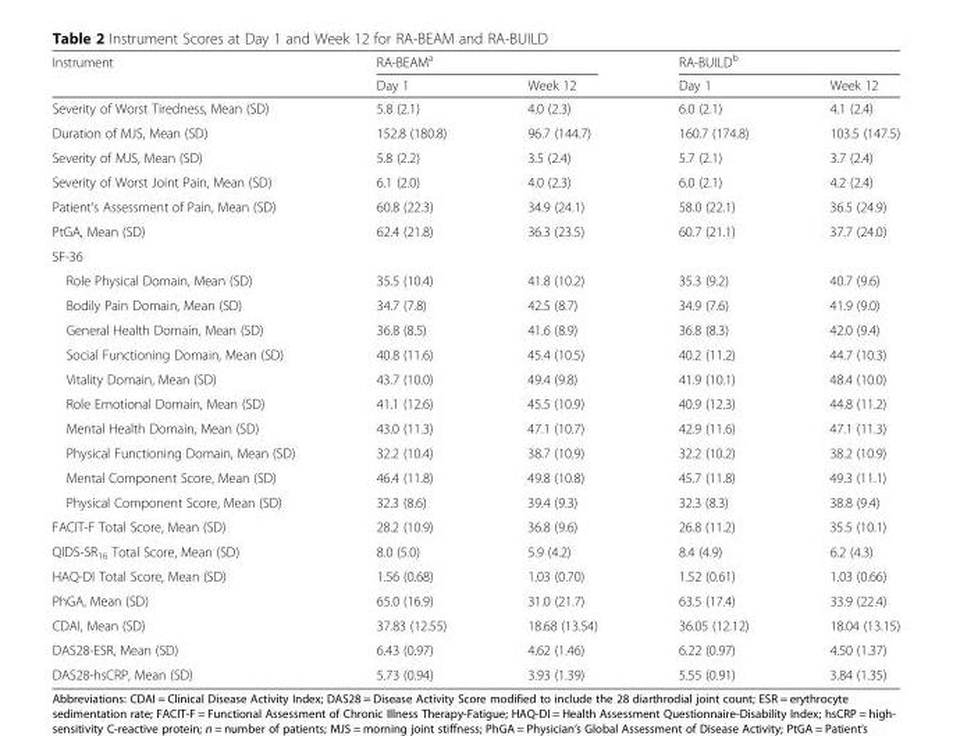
<table><thead><tr><td rowspan="2">Instrument</td><td colspan="2">RA-BEAM<sup>a</sup></td><td colspan="2">RA-BUILD<sup>b</sup></td></tr><tr><td>Day 1</td><td>Week 12</td><td>Day 1</td><td>Week 12</td></tr></thead><tbody><tr><td>Severity of Worst Tiredness, Mean (SD)</td><td>5.8 (2.1)</td><td>4.0 (2.3)</td><td>6.0 (2.1)</td><td>4.1 (2.4)</td></tr><tr><td>Duration of MJS, Mean (SD)</td><td>152.8 (180.8)</td><td>96.7 (144.7)</td><td>160.7 (174.8)</td><td>103.5 (147.5)</td></tr><tr><td>Severity of MJS, Mean (SD)</td><td>5.8 (2.2)</td><td>3.5 (2.4)</td><td>5.7 (2.1)</td><td>3.7 (2.4)</td></tr><tr><td>Severity of Worst Joint Pain, Mean (SD)</td><td>6.1 (2.0)</td><td>4.0 (2.3)</td><td>6.0 (2.1)</td><td>4.2 (2.4)</td></tr><tr><td>Patient’s Assessment of Pain, Mean (SD)</td><td>60.8 (22.3)</td><td>34.9 (24.1)</td><td>58.0 (22.1)</td><td>36.5 (24.9)</td></tr><tr><td>PtGA, Mean (SD)</td><td>62.4 (21.8)</td><td>36.3 (23.5)</td><td>60.7 (21.1)</td><td>37.7 (24.0)</td></tr><tr><td colspan="5">SF-36</td></tr><tr><td>Role Physical Domain, Mean (SD)</td><td>35.5 (10.4)</td><td>41.8 (10.2)</td><td>35.3 (9.2)</td><td>40.7 (9.6)</td></tr><tr><td>Bodily Pain Domain, Mean (SD)</td><td>34.7 (7.8)</td><td>42.5 (8.7)</td><td>34.9 (7.6)</td><td>41.9 (9.0)</td></tr><tr><td>General Health Domain, Mean (SD)</td><td>36.8 (8.5)</td><td>41.6 (8.9)</td><td>36.8 (8.3)</td><td>42.0 (9.4)</td></tr><tr><td>Social Functioning Domain, Mean (SD)</td><td>40.8 (11.6)</td><td>45.4 (10.5)</td><td>40.2 (11.2)</td><td>44.7 (10.3)</td></tr><tr><td>Vitality Domain, Mean (SD)</td><td>43.7 (10.0)</td><td>49.4 (9.8)</td><td>41.9 (10.1)</td><td>48.4 (10.0)</td></tr><tr><td>Role Emotional Domain, Mean (SD)</td><td>41.1 (12.6)</td><td>45.5 (10.9)</td><td>40.9 (12.3)</td><td>44.8 (11.2)</td></tr><tr><td>Mental Health Domain, Mean (SD)</td><td>43.0 (11.3)</td><td>47.1 (10.7)</td><td>42.9 (11.6)</td><td>47.1 (11.3)</td></tr><tr><td>Physical Functioning Domain, Mean (SD)</td><td>32.2 (10.4)</td><td>38.7 (10.9)</td><td>32.2 (10.2)</td><td>38.2 (10.9)</td></tr><tr><td>Mental Component Score, Mean (SD)</td><td>46.4 (11.8)</td><td>49.8 (10.8)</td><td>45.7 (11.8)</td><td>49.3 (11.1)</td></tr><tr><td>Physical Component Score, Mean (SD)</td><td>32.3 (8.6)</td><td>39.4 (9.3)</td><td>32.3 (8.3)</td><td>38.8 (9.4)</td></tr><tr><td>FACIT-F Total Score, Mean (SD)</td><td>28.2 (10.9)</td><td>36.8 (9.6)</td><td>26.8 (11.2)</td><td>35.5 (10.1)</td></tr><tr><td>QIDS-SR<sub>16</sub> Total Score, Mean (SD)</td><td>8.0 (5.0)</td><td>5.9 (4.2)</td><td>8.4 (4.9)</td><td>6.2 (4.3)</td></tr><tr><td>HAQ-DI Total Score, Mean (SD)</td><td>1.56 (0.68)</td><td>1.03 (0.70)</td><td>1.52 (0.61)</td><td>1.03 (0.66)</td></tr><tr><td>PhGA, Mean (SD)</td><td>65.0 (16.9)</td><td>31.0 (21.7)</td><td>63.5 (17.4)</td><td>33.9 (22.4)</td></tr><tr><td>CDAI, Mean (SD)</td><td>37.83 (12.55)</td><td>18.68 (13.54)</td><td>36.05 (12.12)</td><td>18.04 (13.15)</td></tr><tr><td>DAS28-ESR, Mean (SD)</td><td>6.43 (0.97)</td><td>4.62 (1.46)</td><td>6.22 (0.97)</td><td>4.50 (1.37)</td></tr><tr><td>DAS28-hsCRP, Mean (SD)</td><td>5.73 (0.94)</td><td>3.93 (1.39)</td><td>5.55 (0.91)</td><td>3.84 (1.35)</td></tr></tbody></table>